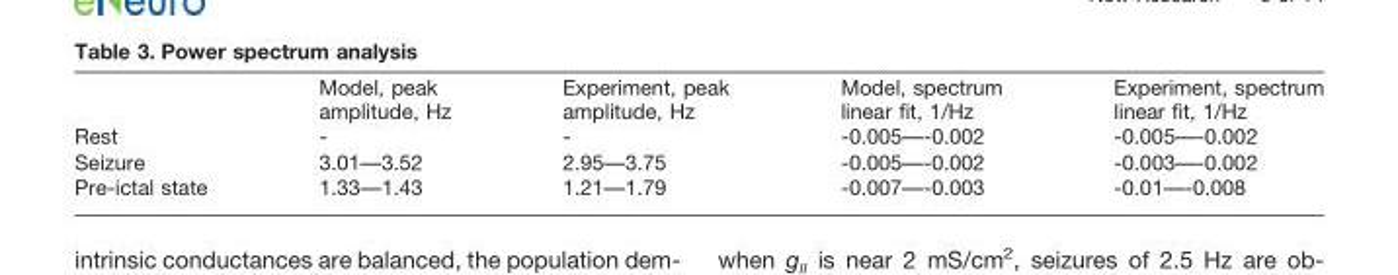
<table><thead><tr><td></td><td>Model, peak amplitude, Hz</td><td>Experiment, peak amplitude, Hz</td><td>Model, spectrum linear fit, 1/Hz</td><td>Experiment, spectrum linear fit, 1/Hz</td></tr></thead><tbody><tr><td>Rest</td><td>-</td><td>-</td><td>-0.005—-0.002</td><td>-0.005—-0.002</td></tr><tr><td>Seizure</td><td>3.01—3.52</td><td>2.95—3.75</td><td>-0.005—-0.002</td><td>-0.003—-0.002</td></tr><tr><td>Pre-ictal state</td><td>1.33—1.43</td><td>1.21—1.79</td><td>-0.007—-0.003</td><td>-0.01—-0.008</td></tr></tbody></table>